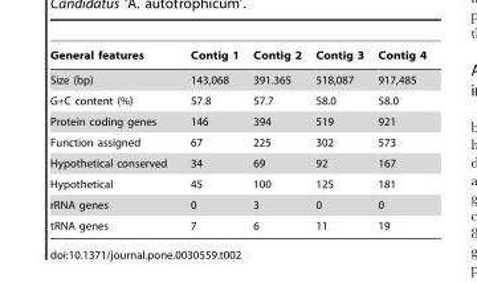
<table><thead><tr><td>General features</td><td>Contig 1</td><td>Contig 2</td><td>Contig 3</td><td>Contig 4</td></tr></thead><tbody><tr><td>Size (bp)</td><td>143,068</td><td>391.365</td><td>518,087</td><td>917,485</td></tr><tr><td>G+C content (%)</td><td>57.8</td><td>57.7</td><td>58.0</td><td>58.0</td></tr><tr><td>Protein coding genes</td><td>146</td><td>394</td><td>519</td><td>921</td></tr><tr><td>Function assigned</td><td>67</td><td>225</td><td>302</td><td>573</td></tr><tr><td>Hypothetical conserved</td><td>34</td><td>69</td><td>92</td><td>167</td></tr><tr><td>Hypothetical</td><td>45</td><td>100</td><td>125</td><td>181</td></tr><tr><td>rRNA genes</td><td>0</td><td>3</td><td>0</td><td>0</td></tr><tr><td>tRNA genes</td><td>7</td><td>6</td><td>11</td><td>19</td></tr></tbody></table>